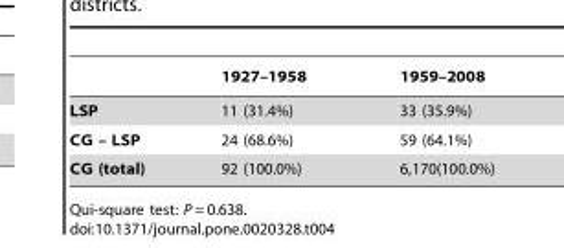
<table><thead><tr><td></td><td>1927–1958</td><td>1959–2008</td></tr></thead><tbody><tr><td>LSP</td><td>11 (31.4%)</td><td>33 (35.9%)</td></tr><tr><td>CG – LSP</td><td>24 (68.6%)</td><td>59 (64.1%)</td></tr><tr><td>CG (total)</td><td>92 (100.0%)</td><td>6,170(100.0%)</td></tr></tbody></table>